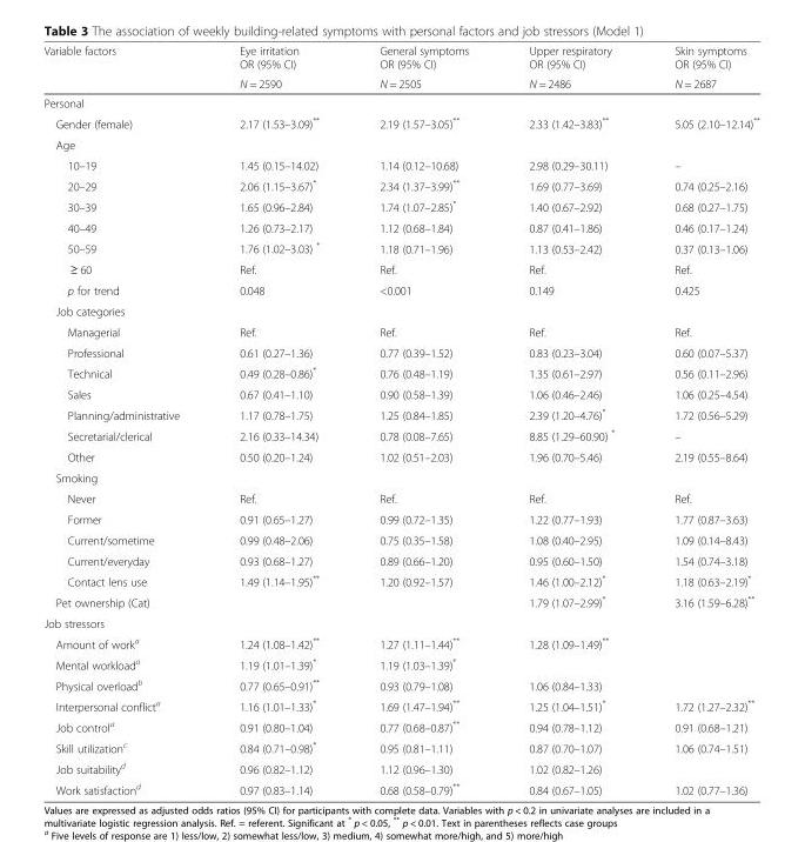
<table><thead><tr><td rowspan="2">Variable factors</td><td rowspan="2">Eye irritation OR (95% CI) N = 2590</td><td rowspan="2">General symptoms OR (95% CI) N = 2505</td><td rowspan="2">Upper respiratory OR (95% CI) N = 2486</td><td rowspan="2">Skin symptoms OR (95% CI) N = 2687</td></tr><tr></tr></thead><tbody><tr><td colspan="5">Personal</td></tr><tr><td>Gender (female)</td><td>2.17 (1.53–3.09)**</td><td>2.19 (1.57–3.05)**</td><td>2.33 (1.42–3.83)**</td><td>5.05 (2.10–12.14)**</td></tr><tr><td colspan="5">Age</td></tr><tr><td>10–19</td><td>1.45 (0.15–14.02)</td><td>1.14 (0.12–10.68)</td><td>2.98 (0.29–30.11)</td><td>–</td></tr><tr><td>20–29</td><td>2.06 (1.15–3.67)*</td><td>2.34 (1.37–3.99)**</td><td>1.69 (0.77–3.69)</td><td>0.74 (0.25–2.16)</td></tr><tr><td>30–39</td><td>1.65 (0.96–2.84)</td><td>1.74 (1.07–2.85)*</td><td>1.40 (0.67–2.92)</td><td>0.68 (0.27–1.75)</td></tr><tr><td>40–49</td><td>1.26 (0.73–2.17)</td><td>1.12 (0.68–1.84)</td><td>0.87 (0.41–1.86)</td><td>0.46 (0.17–1.24)</td></tr><tr><td>50–59</td><td>1.76 (1.02–3.03) *</td><td>1.18 (0.71–1.96)</td><td>1.13 (0.53–2.42)</td><td>0.37 (0.13–1.06)</td></tr><tr><td>≥ 60</td><td>Ref.</td><td>Ref.</td><td>Ref.</td><td>Ref.</td></tr><tr><td>p for trend</td><td>0.048</td><td>&lt;0.001</td><td>0.149</td><td>0.425</td></tr><tr><td colspan="5">Job categories</td></tr><tr><td>Managerial</td><td>Ref.</td><td>Ref.</td><td>Ref.</td><td>Ref.</td></tr><tr><td>Professional</td><td>0.61 (0.27–1.36)</td><td>0.77 (0.39–1.52)</td><td>0.83 (0.23–3.04)</td><td>0.60 (0.07–5.37)</td></tr><tr><td>Technical</td><td>0.49 (0.28–0.86)*</td><td>0.76 (0.48–1.19)</td><td>1.35 (0.61–2.97)</td><td>0.56 (0.11–2.96)</td></tr><tr><td>Sales</td><td>0.67 (0.41–1.10)</td><td>0.90 (0.58–1.39)</td><td>1.06 (0.46–2.46)</td><td>1.06 (0.25–4.54)</td></tr><tr><td>Planning/administrative</td><td>1.17 (0.78–1.75)</td><td>1.25 (0.84–1.85)</td><td>2.39 (1.20–4.76)*</td><td>1.72 (0.56–5.29)</td></tr><tr><td>Secretarial/clerical</td><td>2.16 (0.33–14.34)</td><td>0.78 (0.08–7.65)</td><td>8.85 (1.29–60.90) *</td><td>–</td></tr><tr><td>Other</td><td>0.50 (0.20–1.24)</td><td>1.02 (0.51–2.03)</td><td>1.96 (0.70–5.46)</td><td>2.19 (0.55–8.64)</td></tr><tr><td colspan="5">Smoking</td></tr><tr><td>Never</td><td>Ref.</td><td>Ref.</td><td>Ref.</td><td>Ref.</td></tr><tr><td>Former</td><td>0.91 (0.65–1.27)</td><td>0.99 (0.72–1.35)</td><td>1.22 (0.77–1.93)</td><td>1.77 (0.87–3.63)</td></tr><tr><td>Current/sometime</td><td>0.99 (0.48–2.06)</td><td>0.75 (0.35–1.58)</td><td>1.08 (0.40–2.95)</td><td>1.09 (0.14–8.43)</td></tr><tr><td>Current/everyday</td><td>0.93 (0.68–1.27)</td><td>0.89 (0.66–1.20)</td><td>0.95 (0.60–1.50)</td><td>1.54 (0.74–3.18)</td></tr><tr><td>Contact lens use</td><td>1.49 (1.14–1.95)**</td><td>1.20 (0.92–1.57)</td><td>1.46 (1.00–2.12)*</td><td>1.18 (0.63–2.19)*</td></tr><tr><td>Pet ownership (Cat)</td><td></td><td></td><td>1.79 (1.07–2.99)*</td><td>3.16 (1.59–6.28)**</td></tr><tr><td colspan="5">Job stressors</td></tr><tr><td>Amount of work<sup>a</sup></td><td>1.24 (1.08–1.42)**</td><td>1.27 (1.11–1.44)**</td><td>1.28 (1.09–1.49)**</td><td></td></tr><tr><td>Mental workload<sup>a</sup></td><td>1.19 (1.01–1.39)*</td><td>1.19 (1.03–1.39)*</td><td></td><td></td></tr><tr><td>Physical overload<sup>b</sup></td><td>0.77 (0.65–0.91)**</td><td>0.93 (0.79–1.08)</td><td>1.06 (0.84–1.33)</td><td></td></tr><tr><td>Interpersonal conflict<sup>a</sup></td><td>1.16 (1.01–1.33)*</td><td>1.69 (1.47–1.94)**</td><td>1.25 (1.04–1.51)*</td><td>1.72 (1.27–2.32)**</td></tr><tr><td>Job control<sup>a</sup></td><td>0.91 (0.80–1.04)</td><td>0.77 (0.68–0.87)**</td><td>0.94 (0.78–1.12)</td><td>0.91 (0.68–1.21)</td></tr><tr><td>Skill utilization<sup>c</sup></td><td>0.84 (0.71–0.98)*</td><td>0.95 (0.81–1.11)</td><td>0.87 (0.70–1.07)</td><td>1.06 (0.74–1.51)</td></tr><tr><td>Job suitability<sup>d</sup></td><td>0.96 (0.82–1.12)</td><td>1.12 (0.96–1.30)</td><td>1.02 (0.82–1.26)</td><td></td></tr><tr><td>Work satisfaction<sup>d</sup></td><td>0.97 (0.83–1.14)</td><td>0.68 (0.58–0.79)**</td><td>0.84 (0.67–1.05)</td><td>1.02 (0.77–1.36)</td></tr></tbody></table>